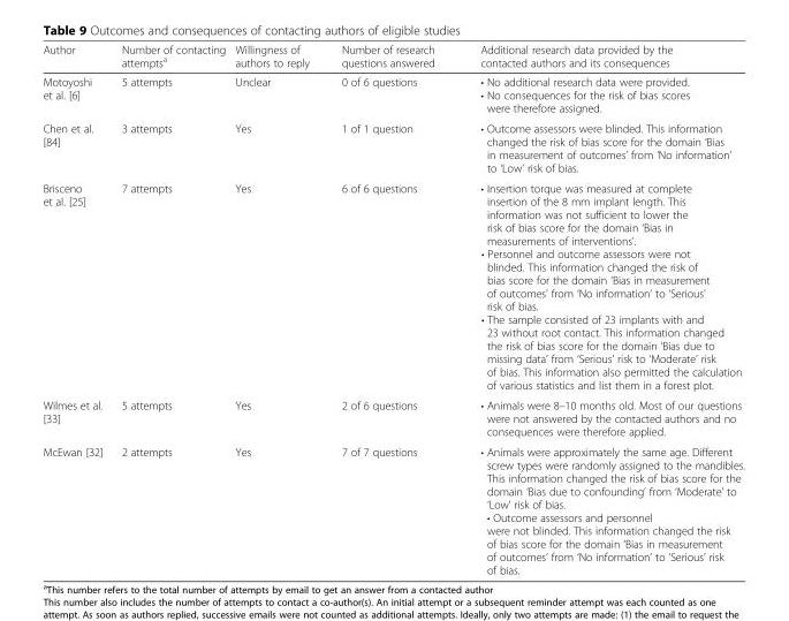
<table><thead><tr><td>Author</td><td>Number of contacting attempts<sup>a</sup></td><td>Willingness of authors to reply</td><td>Number of research questions answered</td><td>Additional research data provided by the contacted authors and its consequences</td></tr></thead><tbody><tr><td>Motoyoshi et al. [6]</td><td>5 attempts</td><td>Unclear</td><td>0 of 6 questions</td><td>• No additional research data were provided. • No consequences for the risk of bias scores were therefore assigned.</td></tr><tr><td>Chen et al. [84]</td><td>3 attempts</td><td>Yes</td><td>1 of 1 question</td><td>• Outcome assessors were blinded. This information changed the risk of bias score for the domain ‘Bias in measurement of outcomes’ from ‘No information’ to ‘Low’ risk of bias.</td></tr><tr><td>Brisceno et al. [25]</td><td>7 attempts</td><td>Yes</td><td>6 of 6 questions</td><td>• Insertion torque was measured at complete insertion of the 8 mm implant length. This information was not sufficient to lower the risk of bias score for the domain ‘Bias in measurements of interventions’. • Personnel and outcome assessors were not blinded. This information changed the risk of bias score for the domain ‘Bias in measurement of outcomes’ from ‘No information’ to ‘Serious’ risk of bias. • The sample consisted of 23 implants with and 23 without root contact. This information changed the risk of bias score for the domain ‘Bias due to missing data’ from ‘Serious’ risk to ‘Moderate’ risk of bias. This information also permitted the calculation of various statistics and list them in a forest plot.</td></tr><tr><td>Wilmes et al. [33]</td><td>5 attempts</td><td>Yes</td><td>2 of 6 questions</td><td>• Animals were 8–10 months old. Most of our questions were not answered by the contacted authors and no consequences were therefore applied.</td></tr><tr><td>McEwan [32]</td><td>2 attempts</td><td>Yes</td><td>7 of 7 questions</td><td>• Animals were approximately the same age. Different screw types were randomly assigned to the mandibles. This information changed the risk of bias score for the domain ‘Bias due to confounding’ from ‘Moderate’ to ‘Low’ risk of bias. • Outcome assessors and personnel were not blinded. This information changed the risk of bias score for the domain ‘Bias in measurement of outcomes’ from ‘No information’ to ‘Serious’ risk of bias.</td></tr></tbody></table>